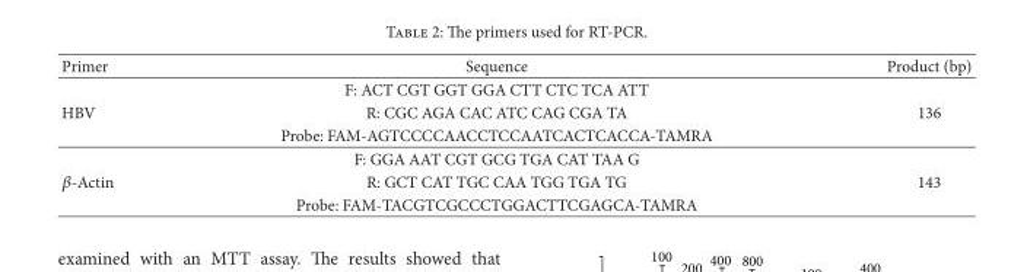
<table><thead><tr><td>Primer</td><td>Sequence</td><td>Product (bp)</td></tr></thead><tbody><tr><td></td><td>F: ACT CGT GGT GGA CTT CTC TCA ATT</td><td></td></tr><tr><td rowspan="3">HBV</td><td>R: CGC AGA CAC ATC CAG CGA TA</td><td>136</td></tr><tr><td>Probe: FAM-AGTCCCCAACCTCCAATCACTCACCA-TAMRA</td><td></td></tr><tr><td>F: GGA AAT CGT GCG TGA CAT TAA G</td><td></td></tr><tr><td rowspan="2">𝛽𝛽-Actin</td><td>R: GCT CAT TGC CAA TGG TGA TG</td><td>143</td></tr><tr><td>Probe: FAM-TACGTCGCCCTGGACTTCGAGCA-TAMRA</td><td></td></tr></tbody></table>